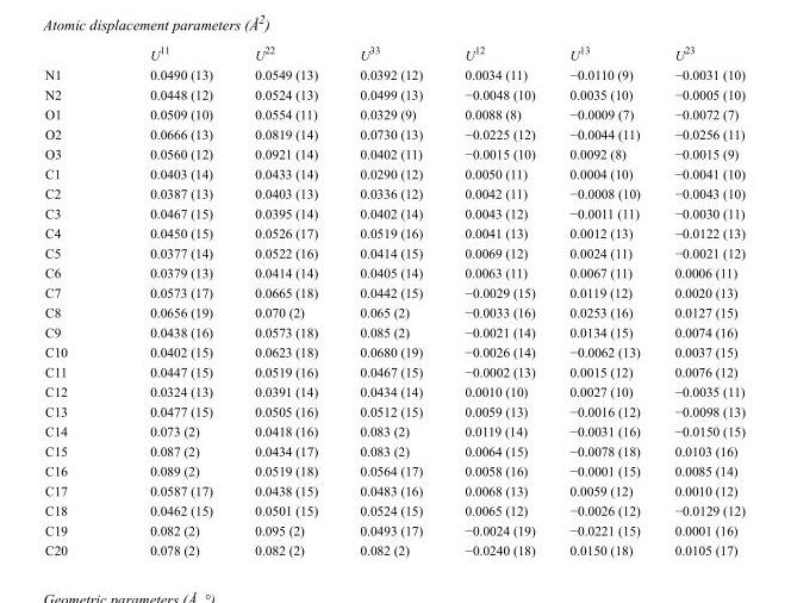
<table><thead><tr><td></td><td>U<sup>11</sup></td><td>U<sup>22</sup></td><td>U<sup>33</sup></td><td>U<sup>12</sup></td><td>U<sup>13</sup></td><td>U<sup>23</sup></td></tr></thead><tbody><tr><td>N1</td><td>0.0490 (13)</td><td>0.0549 (13)</td><td>0.0392 (12)</td><td>0.0034 (11)</td><td>−0.0110 (9)</td><td>−0.0031 (10)</td></tr><tr><td>N2</td><td>0.0448 (12)</td><td>0.0524 (13)</td><td>0.0499 (13)</td><td>−0.0048 (10)</td><td>0.0035 (10)</td><td>−0.0005 (10)</td></tr><tr><td>O1</td><td>0.0509 (10)</td><td>0.0554 (11)</td><td>0.0329 (9)</td><td>0.0088 (8)</td><td>−0.0009 (7)</td><td>−0.0072 (7)</td></tr><tr><td>O2</td><td>0.0666 (13)</td><td>0.0819 (14)</td><td>0.0730 (13)</td><td>−0.0225 (12)</td><td>−0.0044 (11)</td><td>−0.0256 (11)</td></tr><tr><td>O3</td><td>0.0560 (12)</td><td>0.0921 (14)</td><td>0.0402 (11)</td><td>−0.0015 (10)</td><td>0.0092 (8)</td><td>−0.0015 (9)</td></tr><tr><td>C1</td><td>0.0403 (14)</td><td>0.0433 (14)</td><td>0.0290 (12)</td><td>0.0050 (11)</td><td>0.0004 (10)</td><td>−0.0041 (10)</td></tr><tr><td>C2</td><td>0.0387 (13)</td><td>0.0403 (13)</td><td>0.0336 (12)</td><td>0.0042 (11)</td><td>−0.0008 (10)</td><td>−0.0043 (10)</td></tr><tr><td>C3</td><td>0.0467 (15)</td><td>0.0395 (14)</td><td>0.0402 (14)</td><td>0.0043 (12)</td><td>−0.0011 (11)</td><td>−0.0030 (11)</td></tr><tr><td>C4</td><td>0.0450 (15)</td><td>0.0526 (17)</td><td>0.0519 (16)</td><td>0.0041 (13)</td><td>0.0012 (13)</td><td>−0.0122 (13)</td></tr><tr><td>C5</td><td>0.0377 (14)</td><td>0.0522 (16)</td><td>0.0414 (15)</td><td>0.0069 (12)</td><td>0.0024 (11)</td><td>−0.0021 (12)</td></tr><tr><td>C6</td><td>0.0379 (13)</td><td>0.0414 (14)</td><td>0.0405 (14)</td><td>0.0063 (11)</td><td>0.0067 (11)</td><td>0.0006 (11)</td></tr><tr><td>C7</td><td>0.0573 (17)</td><td>0.0665 (18)</td><td>0.0442 (15)</td><td>−0.0029 (15)</td><td>0.0119 (12)</td><td>0.0020 (13)</td></tr><tr><td>C8</td><td>0.0656 (19)</td><td>0.070 (2)</td><td>0.065 (2)</td><td>−0.0033 (16)</td><td>0.0253 (16)</td><td>0.0127 (15)</td></tr><tr><td>C9</td><td>0.0438 (16)</td><td>0.0573 (18)</td><td>0.085 (2)</td><td>−0.0021 (14)</td><td>0.0134 (15)</td><td>0.0074 (16)</td></tr><tr><td>C10</td><td>0.0402 (15)</td><td>0.0623 (18)</td><td>0.0680 (19)</td><td>−0.0026 (14)</td><td>−0.0062 (13)</td><td>0.0037 (15)</td></tr><tr><td>C11</td><td>0.0447 (15)</td><td>0.0519 (16)</td><td>0.0467 (15)</td><td>−0.0002 (13)</td><td>0.0015 (12)</td><td>0.0076 (12)</td></tr><tr><td>C12</td><td>0.0324 (13)</td><td>0.0391 (14)</td><td>0.0434 (14)</td><td>0.0010 (10)</td><td>0.0027 (10)</td><td>−0.0035 (11)</td></tr><tr><td>C13</td><td>0.0477 (15)</td><td>0.0505 (16)</td><td>0.0512 (15)</td><td>0.0059 (13)</td><td>−0.0016 (12)</td><td>−0.0098 (13)</td></tr><tr><td>C14</td><td>0.073 (2)</td><td>0.0418 (16)</td><td>0.083 (2)</td><td>0.0119 (14)</td><td>−0.0031 (16)</td><td>−0.0150 (15)</td></tr><tr><td>C15</td><td>0.087 (2)</td><td>0.0434 (17)</td><td>0.083 (2)</td><td>0.0064 (15)</td><td>−0.0078 (18)</td><td>0.0103 (16)</td></tr><tr><td>C16</td><td>0.089 (2)</td><td>0.0519 (18)</td><td>0.0564 (17)</td><td>0.0058 (16)</td><td>−0.0001 (15)</td><td>0.0085 (14)</td></tr><tr><td>C17</td><td>0.0587 (17)</td><td>0.0438 (15)</td><td>0.0483 (16)</td><td>0.0068 (13)</td><td>0.0059 (12)</td><td>0.0010 (12)</td></tr><tr><td>C18</td><td>0.0462 (15)</td><td>0.0501 (15)</td><td>0.0524 (15)</td><td>0.0065 (12)</td><td>−0.0026 (12)</td><td>−0.0129 (12)</td></tr><tr><td>C19</td><td>0.082 (2)</td><td>0.095 (2)</td><td>0.0493 (17)</td><td>−0.0024 (19)</td><td>−0.0221 (15)</td><td>0.0001 (16)</td></tr><tr><td>C20</td><td>0.078 (2)</td><td>0.082 (2)</td><td>0.082 (2)</td><td>−0.0240 (18)</td><td>0.0150 (18)</td><td>0.0105 (17)</td></tr></tbody></table>